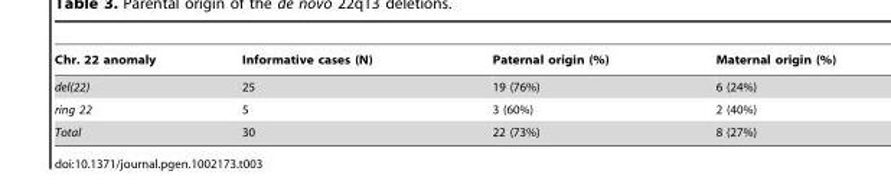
<table><thead><tr><td>Chr. 22 anomaly</td><td>Informative cases (N)</td><td>Paternal origin (%)</td><td>Maternal origin (%)</td></tr></thead><tbody><tr><td>del(22)</td><td>25</td><td>19 (76%)</td><td>6 (24%)</td></tr><tr><td>ring 22</td><td>5</td><td>3 (60%)</td><td>2 (40%)</td></tr><tr><td>Total</td><td>30</td><td>22 (73%)</td><td>8 (27%)</td></tr></tbody></table>